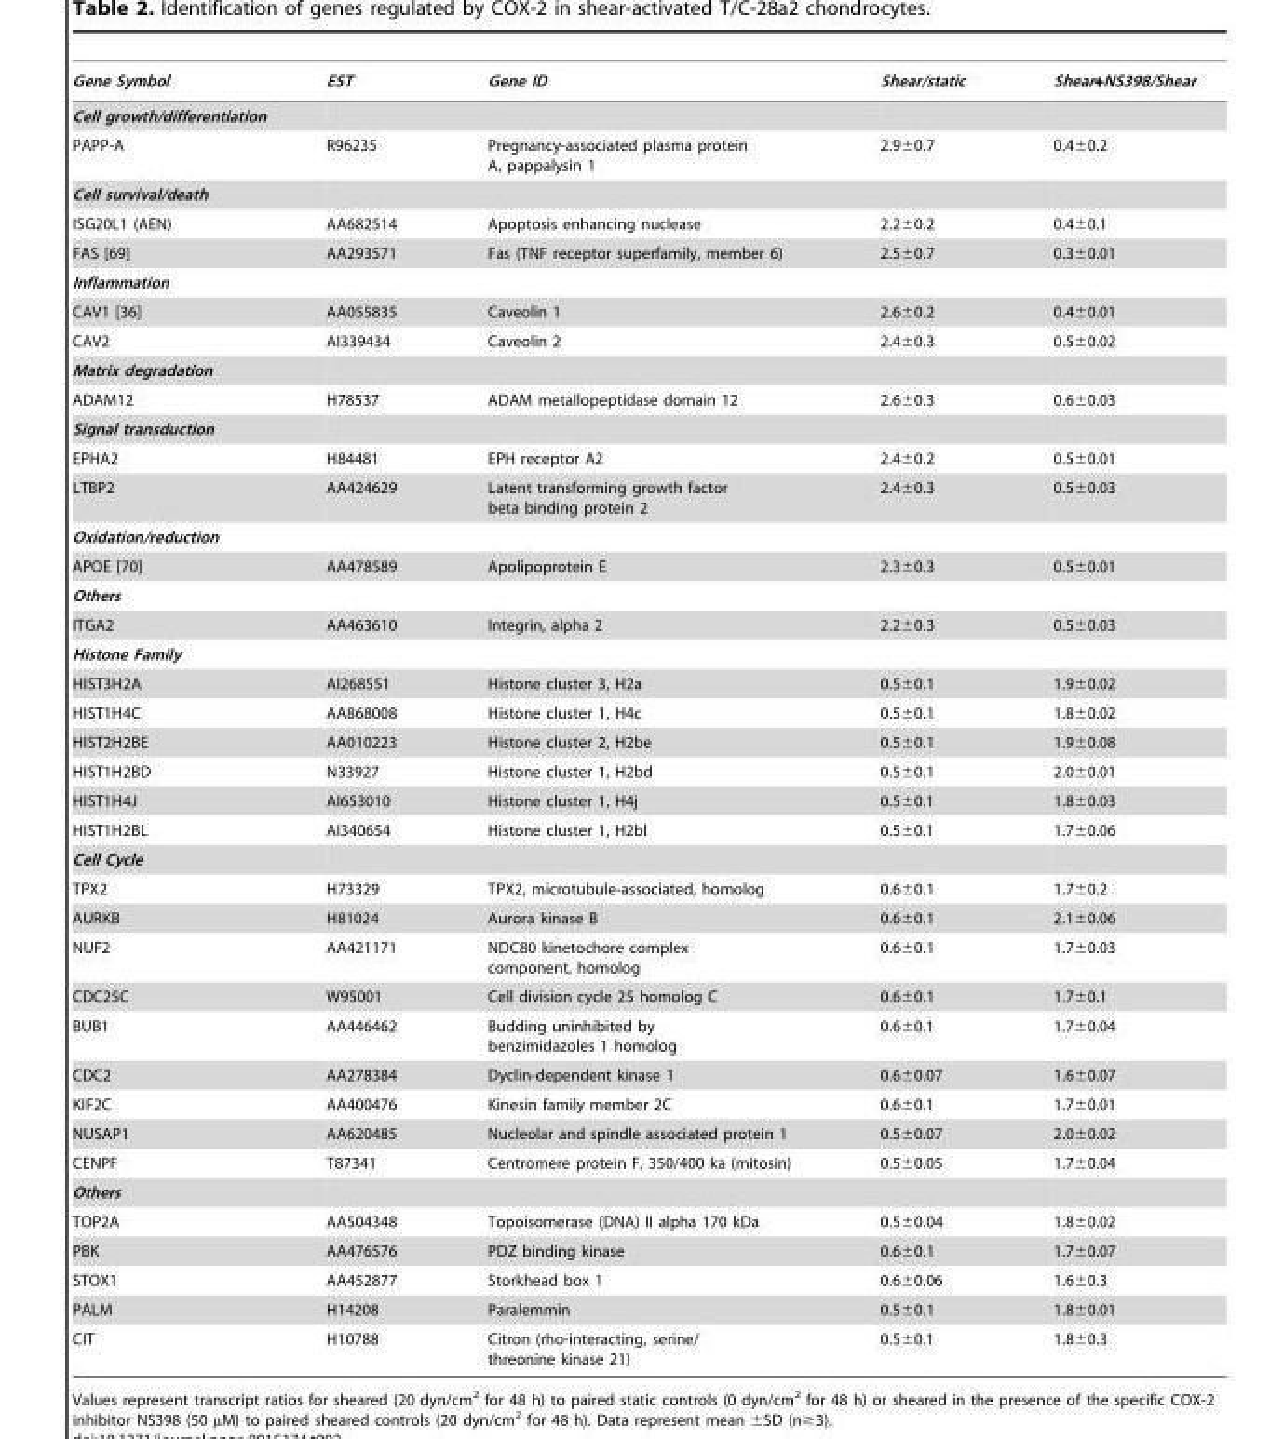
<table><thead><tr><td>Gene Symbol</td><td>EST</td><td>Gene ID</td><td>Shear/static</td><td>Shear+NS398/Shear</td></tr></thead><tbody><tr><td colspan="5">Cell growth/differentiation</td></tr><tr><td>PAPP-A</td><td>R96235</td><td>Pregnancy-associated plasma protein A, pappalysin 1</td><td>2.9±0.7</td><td>0.4±0.2</td></tr><tr><td colspan="5">Cell survival/death</td></tr><tr><td>ISG20L1 (AEN)</td><td>AA682514</td><td>Apoptosis enhancing nuclease</td><td>2.2±0.2</td><td>0.4±0.1</td></tr><tr><td>FAS [69]</td><td>AA293571</td><td>Fas (TNF receptor superfamily, member 6)</td><td>2.5±0.7</td><td>0.3±0.01</td></tr><tr><td colspan="5">Inflammation</td></tr><tr><td>CAV1 [36]</td><td>AA055835</td><td>Caveolin 1</td><td>2.6±0.2</td><td>0.4±0.01</td></tr><tr><td>CAV2</td><td>AI339434</td><td>Caveolin 2</td><td>2.4±0.3</td><td>0.5±0.02</td></tr><tr><td colspan="5">Matrix degradation</td></tr><tr><td>ADAM12</td><td>H78537</td><td>ADAM metallopeptidase domain 12</td><td>2.6±0.3</td><td>0.6±0.03</td></tr><tr><td colspan="5">Signal transduction</td></tr><tr><td>EPHA2</td><td>H84481</td><td>EPH receptor A2</td><td>2.4±0.2</td><td>0.5±0.01</td></tr><tr><td>LTBP2</td><td>AA424629</td><td>Latent transforming growth factor beta binding protein 2</td><td>2.4±0.3</td><td>0.5±0.03</td></tr><tr><td colspan="5">Oxidation/reduction</td></tr><tr><td>APOE [70]</td><td>AA478589</td><td>Apolipoprotein E</td><td>2.3±0.3</td><td>0.5±0.01</td></tr><tr><td colspan="5">Others</td></tr><tr><td>ITGA2</td><td>AA463610</td><td>Integrin, alpha 2</td><td>2.2±0.3</td><td>0.5±0.03</td></tr><tr><td colspan="5">Histone Family</td></tr><tr><td>HIST3H2A</td><td>AI268551</td><td>Histone cluster 3, H2a</td><td>0.5±0.1</td><td>1.9±0.02</td></tr><tr><td>HIST1H4C</td><td>AA868008</td><td>Histone cluster 1, H4c</td><td>0.5±0.1</td><td>1.8±0.02</td></tr><tr><td>HIST2H2BE</td><td>AA010223</td><td>Histone cluster 2, H2be</td><td>0.5±0.1</td><td>1.9±0.08</td></tr><tr><td>HIST1H2BD</td><td>N33927</td><td>Histone cluster 1, H2bd</td><td>0.5±0.1</td><td>2.0±0.01</td></tr><tr><td>HIST1H4J</td><td>AI653010</td><td>Histone cluster 1, H4j</td><td>0.5±0.1</td><td>1.8±0.03</td></tr><tr><td>HIST1H2BL</td><td>AI340654</td><td>Histone cluster 1, H2bl</td><td>0.5±0.1</td><td>1.7±0.06</td></tr><tr><td colspan="5">Cell Cycle</td></tr><tr><td>TPX2</td><td>H73329</td><td>TPX2, microtubule-associated, homolog</td><td>0.6±0.1</td><td>1.7±0.2</td></tr><tr><td>AURKB</td><td>H81024</td><td>Aurora kinase B</td><td>0.6±0.1</td><td>2.1±0.06</td></tr><tr><td>NUF2</td><td>AA421171</td><td>NDC80 kinetochore complex component, homolog</td><td>0.6±0.1</td><td>1.7±0.03</td></tr><tr><td>CDC25C</td><td>W95001</td><td>Cell division cycle 25 homolog C</td><td>0.6±0.1</td><td>1.7±0.1</td></tr><tr><td>BUB1</td><td>AA446462</td><td>Budding uninhibited by benzimidazoles 1 homolog</td><td>0.6±0.1</td><td>1.7±0.04</td></tr><tr><td>CDC2</td><td>AA278384</td><td>Dyclin-dependent kinase 1</td><td>0.6±0.07</td><td>1.6±0.07</td></tr><tr><td>KIF2C</td><td>AA400476</td><td>Kinesin family member 2C</td><td>0.6±0.1</td><td>1.7±0.01</td></tr><tr><td>NUSAP1</td><td>AA620485</td><td>Nucleolar and spindle associated protein 1</td><td>0.5±0.07</td><td>2.0±0.02</td></tr><tr><td>CENPF</td><td>T87341</td><td>Centromere protein F, 350/400 ka (mitosin)</td><td>0.5±0.05</td><td>1.7±0.04</td></tr><tr><td colspan="5">Others</td></tr><tr><td>TOP2A</td><td>AA504348</td><td>Topoisomerase (DNA) II alpha 170 kDa</td><td>0.5±0.04</td><td>1.8±0.02</td></tr><tr><td>PBK</td><td>AA476576</td><td>PDZ binding kinase</td><td>0.6±0.1</td><td>1.7±0.07</td></tr><tr><td>STOX1</td><td>AA452877</td><td>Storkhead box 1</td><td>0.6±0.06</td><td>1.6±0.3</td></tr><tr><td>PALM</td><td>H14208</td><td>Paralemmin</td><td>0.5±0.1</td><td>1.8±0.01</td></tr><tr><td>CIT</td><td>H10788</td><td>Citron (rho-interacting, serine/ threonine kinase 21)</td><td>0.5±0.1</td><td>1.8±0.3</td></tr></tbody></table>